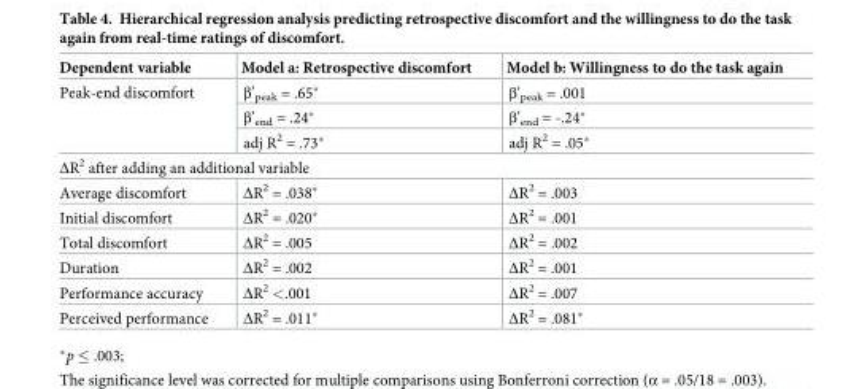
<table><thead><tr><td>Dependent variable</td><td>Model a: Retrospective discomfort</td><td>Model b: Willingness to do the task again</td></tr></thead><tbody><tr><td rowspan="3">Peak-end discomfort</td><td>β’<sub>peak</sub> = .65*</td><td>β’<sub>peak</sub> = .001</td></tr><tr><td>β’<sub>end</sub> = .24*</td><td>β’<sub>end</sub> = -.24*</td></tr><tr><td>adj R<sup>2</sup> = .73*</td><td>adj R<sup>2</sup> = .05*</td></tr><tr><td colspan="3">ΔR<sup>2</sup> after adding an additional variable</td></tr><tr><td>Average discomfort</td><td>ΔR<sup>2</sup> = .038*</td><td>ΔR<sup>2</sup> = .003</td></tr><tr><td>Initial discomfort</td><td>ΔR<sup>2</sup> = .020*</td><td>ΔR<sup>2</sup> = .001</td></tr><tr><td>Total discomfort</td><td>ΔR<sup>2</sup> = .005</td><td>ΔR<sup>2</sup> = .002</td></tr><tr><td>Duration</td><td>ΔR<sup>2</sup> = .002</td><td>ΔR<sup>2</sup> = .001</td></tr><tr><td>Performance accuracy</td><td>ΔR<sup>2</sup> &lt;.001</td><td>ΔR<sup>2</sup> = .007</td></tr><tr><td>Perceived performance</td><td>ΔR<sup>2</sup> = .011*</td><td>ΔR<sup>2</sup> = .081*</td></tr></tbody></table>